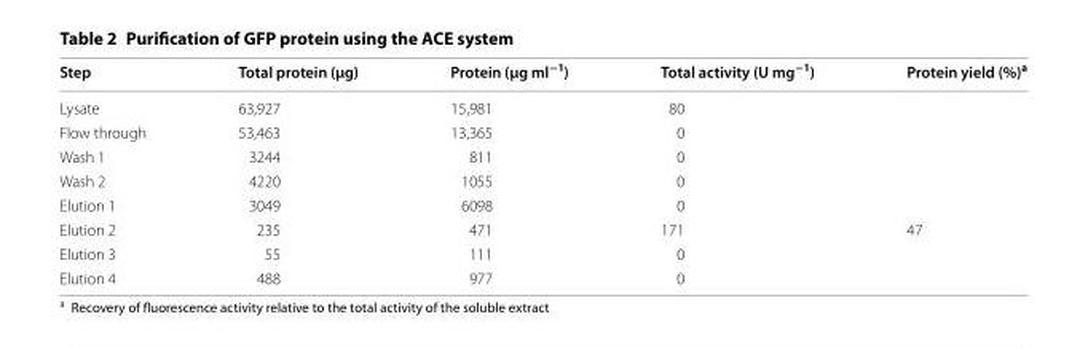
<table><thead><tr><td>Step</td><td>Total protein (µg)</td><td>Protein (µg ml<sup>−1</sup>)</td><td>Total activity (U mg<sup>−1</sup>)</td><td>Protein yield (%)<sup>a</sup></td></tr></thead><tbody><tr><td>Lysate</td><td>63,927</td><td>15,981</td><td>80</td><td></td></tr><tr><td>Flow through</td><td>53,463</td><td>13,365</td><td>0</td><td></td></tr><tr><td>Wash 1</td><td>3244</td><td>811</td><td>0</td><td></td></tr><tr><td>Wash 2</td><td>4220</td><td>1055</td><td>0</td><td></td></tr><tr><td>Elution 1</td><td>3049</td><td>6098</td><td>0</td><td></td></tr><tr><td>Elution 2</td><td>235</td><td>471</td><td>171</td><td>47</td></tr><tr><td>Elution 3</td><td>55</td><td>111</td><td>0</td><td></td></tr><tr><td>Elution 4</td><td>488</td><td>977</td><td>0</td><td></td></tr></tbody></table>